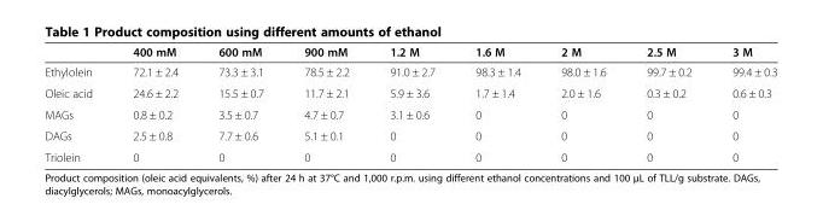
<table><thead><tr><td></td><td>400 mM</td><td>600 mM</td><td>900 mM</td><td>1.2 M</td><td>1.6 M</td><td>2 M</td><td>2.5 M</td><td>3 M</td></tr></thead><tbody><tr><td>Ethylolein</td><td>72.1 ± 2.4</td><td>73.3 ± 3.1</td><td>78.5 ± 2.2</td><td>91.0 ± 2.7</td><td>98.3 ± 1.4</td><td>98.0 ± 1.6</td><td>99.7 ± 0.2</td><td>99.4 ± 0.3</td></tr><tr><td>Oleic acid</td><td>24.6 ± 2.2</td><td>15.5 ± 0.7</td><td>11.7 ± 2.1</td><td>5.9 ± 3.6</td><td>1.7 ± 1.4</td><td>2.0 ± 1.6</td><td>0.3 ± 0.2</td><td>0.6 ± 0.3</td></tr><tr><td>MAGs</td><td>0.8 ± 0.2</td><td>3.5 ± 0.7</td><td>4.7 ± 0.7</td><td>3.1 ± 0.6</td><td>0</td><td>0</td><td>0</td><td>0</td></tr><tr><td>DAGs</td><td>2.5 ± 0.8</td><td>7.7 ± 0.6</td><td>5.1 ± 0.1</td><td>0</td><td>0</td><td>0</td><td>0</td><td>0</td></tr><tr><td>Triolein</td><td>0</td><td>0</td><td>0</td><td>0</td><td>0</td><td>0</td><td>0</td><td>0</td></tr></tbody></table>